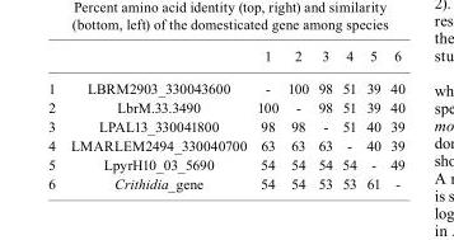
<table><thead><tr><td></td><td></td><td>1</td><td>2</td><td>3</td><td>4</td><td>5</td><td>6</td></tr></thead><tbody><tr><td>1</td><td>LBRM2903_330043600</td><td>-</td><td>100</td><td>98</td><td>51</td><td>39</td><td>40</td></tr><tr><td>2</td><td>LbrM.33.3490</td><td>100</td><td>-</td><td>98</td><td>51</td><td>39</td><td>40</td></tr><tr><td>3</td><td>LPAL13_330041800</td><td>98</td><td>98</td><td>-</td><td>51</td><td>40</td><td>39</td></tr><tr><td>4</td><td>LMARLEM2494_330040700</td><td>63</td><td>63</td><td>63</td><td>-</td><td>40</td><td>39</td></tr><tr><td>5</td><td>LpyrH10_03_5690</td><td>54</td><td>54</td><td>54</td><td>54</td><td>-</td><td>49</td></tr><tr><td>6</td><td>Crithidia_gene</td><td>54</td><td>54</td><td>53</td><td>53</td><td>61</td><td>-</td></tr></tbody></table>